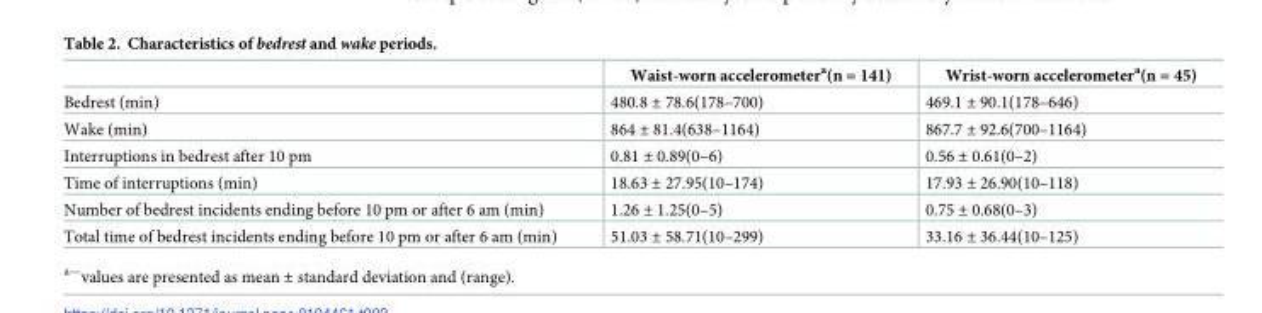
<table><thead><tr><td></td><td>Waist-worn accelerometer<sup>a</sup>(n = 141)</td><td>Wrist-worn accelerometer<sup>a</sup>(n = 45)</td></tr></thead><tbody><tr><td>Bedrest (min)</td><td>480.8 ± 78.6(178–700)</td><td>469.1 ± 90.1(178–646)</td></tr><tr><td>Wake (min)</td><td>864 ± 81.4(638–1164)</td><td>867.7 ± 92.6(700–1164)</td></tr><tr><td>Interruptions in bedrest after 10 pm</td><td>0.81 ± 0.89(0–6)</td><td>0.56 ± 0.61(0–2)</td></tr><tr><td>Time of interruptions (min)</td><td>18.63 ± 27.95(10–174)</td><td>17.93 ± 26.90(10–118)</td></tr><tr><td>Number of bedrest incidents ending before 10 pm or after 6 am (min)</td><td>1.26 ± 1.25(0–5)</td><td>0.75 ± 0.68(0–3)</td></tr><tr><td>Total time of bedrest incidents ending before 10 pm or after 6 am (min)</td><td>51.03 ± 58.71(10–299)</td><td>33.16 ± 36.44(10–125)</td></tr></tbody></table>